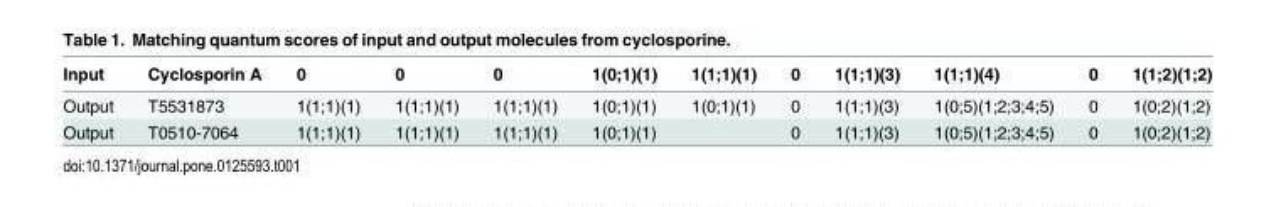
<table><thead><tr><td>Input</td><td>Cyclosporin A</td><td>0</td><td>0</td><td>0</td><td>1(0;1)(1)</td><td>1(1;1)(1)</td><td>0</td><td>1(1;1)(3)</td><td>1(1;1)(4)</td><td>0</td><td>1(1;2)(1;2)</td></tr></thead><tbody><tr><td>Output</td><td>T5531873</td><td>1(1;1)(1)</td><td>1(1;1)(1)</td><td>1(1;1)(1)</td><td>1(0;1)(1)</td><td>1(0;1)(1)</td><td>0</td><td>1(1;1)(3)</td><td>1(0;5)(1;2;3;4;5)</td><td>0</td><td>1(0;2)(1;2)</td></tr><tr><td>Output</td><td>T0510-7064</td><td>1(1;1)(1)</td><td>1(1;1)(1)</td><td>1(1;1)(1)</td><td>1(0;1)(1)</td><td></td><td>0</td><td>1(1;1)(3)</td><td>1(0;5)(1;2;3;4;5)</td><td>0</td><td>1(0;2)(1;2)</td></tr></tbody></table>